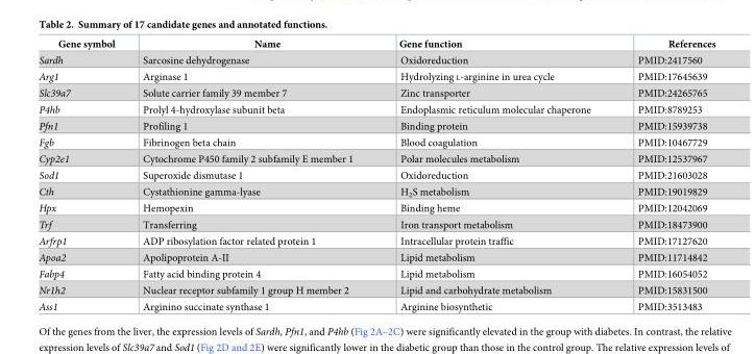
<table><thead><tr><td>Gene symbol</td><td>Name</td><td>Gene function</td><td>References</td></tr></thead><tbody><tr><td>Sardh</td><td>Sarcosine dehydrogenase</td><td>Oxidoreduction</td><td>PMID:2417560</td></tr><tr><td>Arg1</td><td>Arginase 1</td><td>Hydrolyzing L-arginine in urea cycle</td><td>PMID:17645639</td></tr><tr><td>Slc39a7</td><td>Solute carrier family 39 member 7</td><td>Zinc transporter</td><td>PMID:24265765</td></tr><tr><td>P4hb</td><td>Prolyl 4-hydroxylase subunit beta</td><td>Endoplasmic reticulum molecular chaperone</td><td>PMID:8789253</td></tr><tr><td>Pfn1</td><td>Profiling 1</td><td>Binding protein</td><td>PMID:15939738</td></tr><tr><td>Fgb</td><td>Fibrinogen beta chain</td><td>Blood coagulation</td><td>PMID:10467729</td></tr><tr><td>Cyp2e1</td><td>Cytochrome P450 family 2 subfamily E member 1</td><td>Polar molecules metabolism</td><td>PMID:12537967</td></tr><tr><td>Sod1</td><td>Superoxide dismutase 1</td><td>Oxidoreduction</td><td>PMID:21603028</td></tr><tr><td>Cth</td><td>Cystathionine gamma-lyase</td><td>H<sub>2</sub>S metabolism</td><td>PMID:19019829</td></tr><tr><td>Hpx</td><td>Hemopexin</td><td>Binding heme</td><td>PMID:12042069</td></tr><tr><td>Trf</td><td>Transferring</td><td>Iron transport metabolism</td><td>PMID:18473900</td></tr><tr><td>Arfrp1</td><td>ADP ribosylation factor related protein 1</td><td>Intracellular protein traffic</td><td>PMID:17127620</td></tr><tr><td>Apoa2</td><td>Apolipoprotein A-II</td><td>Lipid metabolism</td><td>PMID:11714842</td></tr><tr><td>Fabp4</td><td>Fatty acid binding protein 4</td><td>Lipid metabolism</td><td>PMID:16054052</td></tr><tr><td>Nr1h2</td><td>Nuclear receptor subfamily 1 group H member 2</td><td>Lipid and carbohydrate metabolism</td><td>PMID:15831500</td></tr><tr><td>Ass1</td><td>Arginino succinate synthase 1</td><td>Arginine biosynthetic</td><td>PMID:3513483</td></tr></tbody></table>